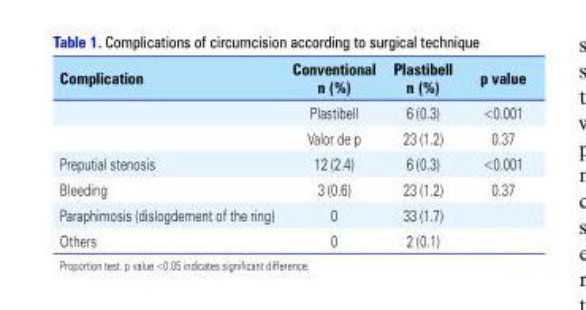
<table><thead><tr><td>Complication</td><td>Conventional n (%)</td><td>Plastibell n (%)</td><td>p value</td></tr></thead><tbody><tr><td></td><td>Plastibell</td><td>6 (0.3)</td><td>&lt;0.001</td></tr><tr><td></td><td>Valor de p</td><td>23 (1.2)</td><td>0.37</td></tr><tr><td>Preputial stenosis</td><td>12 (2.4)</td><td>6 (0.3)</td><td>&lt;0.001</td></tr><tr><td>Bleeding</td><td>3 (0.6)</td><td>23 (1.2)</td><td>0.37</td></tr><tr><td>Paraphimosis (dislogdement of the ring)</td><td>0</td><td>33 (1.7)</td><td></td></tr><tr><td>Others</td><td>0</td><td>2 (0.1)</td><td></td></tr></tbody></table>